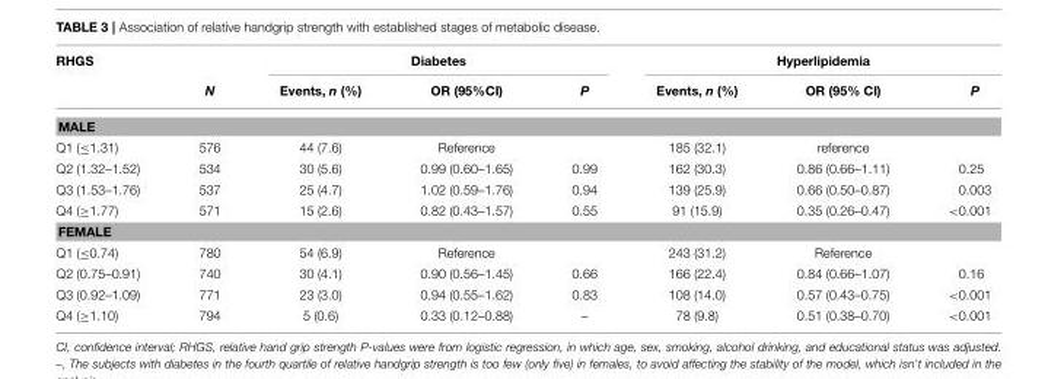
<table><thead><tr><td rowspan="2">RHGS</td><td rowspan="2">N</td><td colspan="3">Diabetes</td><td colspan="3">Hyperlipidemia</td></tr><tr><td>Events, n (%)</td><td>OR (95%CI)</td><td>P</td><td>Events, n (%)</td><td>OR (95% CI)</td><td>P</td></tr></thead><tbody><tr><td colspan="8">MALE</td></tr><tr><td>Q1 (≤1.31)</td><td>576</td><td>44 (7.6)</td><td>Reference</td><td></td><td>185 (32.1)</td><td>reference</td><td></td></tr><tr><td>Q2 (1.32–1.52)</td><td>534</td><td>30 (5.6)</td><td>0.99 (0.60–1.65)</td><td>0.99</td><td>162 (30.3)</td><td>0.86 (0.66–1.11)</td><td>0.25</td></tr><tr><td>Q3 (1.53–1.76)</td><td>537</td><td>25 (4.7)</td><td>1.02 (0.59–1.76)</td><td>0.94</td><td>139 (25.9)</td><td>0.66 (0.50–0.87)</td><td>0.003</td></tr><tr><td>Q4 (≥1.77)</td><td>571</td><td>15 (2.6)</td><td>0.82 (0.43–1.57)</td><td>0.55</td><td>91 (15.9)</td><td>0.35 (0.26–0.47)</td><td>&lt;0.001</td></tr><tr><td colspan="8">FEMALE</td></tr><tr><td>Q1 (≤0.74)</td><td>780</td><td>54 (6.9)</td><td>Reference</td><td></td><td>243 (31.2)</td><td>Reference</td><td></td></tr><tr><td>Q2 (0.75–0.91)</td><td>740</td><td>30 (4.1)</td><td>0.90 (0.56–1.45)</td><td>0.66</td><td>166 (22.4)</td><td>0.84 (0.66–1.07)</td><td>0.16</td></tr><tr><td>Q3 (0.92–1.09)</td><td>771</td><td>23 (3.0)</td><td>0.94 (0.55–1.62)</td><td>0.83</td><td>108 (14.0)</td><td>0.57 (0.43–0.75)</td><td>&lt;0.001</td></tr><tr><td>Q4 (≥1.10)</td><td>794</td><td>5 (0.6)</td><td>0.33 (0.12–0.88)</td><td>–</td><td>78 (9.8)</td><td>0.51 (0.38–0.70)</td><td>&lt;0.001</td></tr></tbody></table>